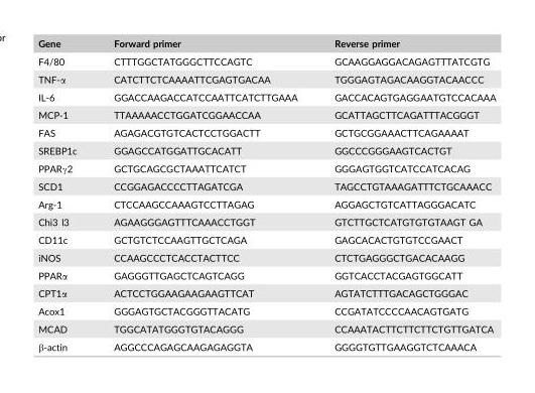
<table><thead><tr><td>Gene</td><td>Forward primer</td><td>Reverse primer</td></tr></thead><tbody><tr><td>F4/80</td><td>CTTTGGCTATGGGCTTCCAGTC</td><td>GCAAGGAGGACAGAGTTTATCGTG</td></tr><tr><td>TNF-α</td><td>CATCTTCTCAAAATTCGAGTGACAA</td><td>TGGGAGTAGACAAGGTACAACCC</td></tr><tr><td>IL-6</td><td>GGACCAAGACCATCCAATTCATCTTGAAA</td><td>GACCACAGTGAGGAATGTCCACAAA</td></tr><tr><td>MCP-1</td><td>TTAAAAACCTGGATCGGAACCAA</td><td>GCATTAGCTTCAGATTTACGGGT</td></tr><tr><td>FAS</td><td>AGAGACGTGTCACTCCTGGACTT</td><td>GCTGCGGAAACTTCAGAAAAT</td></tr><tr><td>SREBP1c</td><td>GGAGCCATGGATTGCACATT</td><td>GGCCCGGGAAGTCACTGT</td></tr><tr><td>PPARγ2</td><td>GCTGCAGCGCTAAATTCATCT</td><td>GGGAGTGGTCATCCATCACAG</td></tr><tr><td>SCD1</td><td>CCGGAGACCCCTTAGATCGA</td><td>TAGCCTGTAAAGATTTCTGCAAACC</td></tr><tr><td>Arg-1</td><td>CTCCAAGCCAAAGTCCTTAGAG</td><td>AGGAGCTGTCATTAGGGACATC</td></tr><tr><td>Chi3 l3</td><td>AGAAGGGAGTTTCAAACCTGGT</td><td>GTCTTGCTCATGTGTGTAAGT GA</td></tr><tr><td>CD11c</td><td>GCTGTCTCCAAGTTGCTCAGA</td><td>GAGCACACTGTGTCCGAACT</td></tr><tr><td>iNOS</td><td>CCAAGCCCTCACCTACTTCC</td><td>CTCTGAGGGCTGACACAAGG</td></tr><tr><td>PPARα</td><td>GAGGGTTGAGCTCAGTCAGG</td><td>GGTCACCTACGAGTGGCATT</td></tr><tr><td>CPT1α</td><td>ACTCCTGGAAGAAGAAGTTCAT</td><td>AGTATCTTTGACAGCTGGGAC</td></tr><tr><td>Acox1</td><td>GGGAGTGCTACGGGTTACATG</td><td>CCGATATCCCCAACAGTGATG</td></tr><tr><td>MCAD</td><td>TGGCATATGGGTGTACAGGG</td><td>CCAAATACTTCTTCTTCTGTTGATCA</td></tr><tr><td>β-actin</td><td>AGGCCCAGAGCAAGAGAGGTA</td><td>GGGGTGTTGAAGGTCTCAAACA</td></tr></tbody></table>